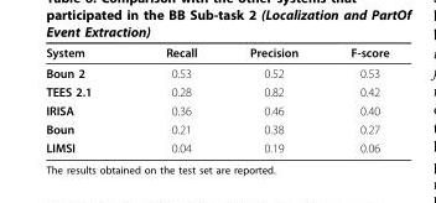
<table><thead><tr><td>System</td><td>Recall</td><td>Precision</td><td>F-score</td></tr></thead><tbody><tr><td>Boun 2</td><td>0.53</td><td>0.52</td><td>0.53</td></tr><tr><td>TEES 2.1</td><td>0.28</td><td>0.82</td><td>0.42</td></tr><tr><td>IRISA</td><td>0.36</td><td>0.46</td><td>0.40</td></tr><tr><td>Boun</td><td>0.21</td><td>0.38</td><td>0.27</td></tr><tr><td>LIMSI</td><td>0.04</td><td>0.19</td><td>0.06</td></tr></tbody></table>